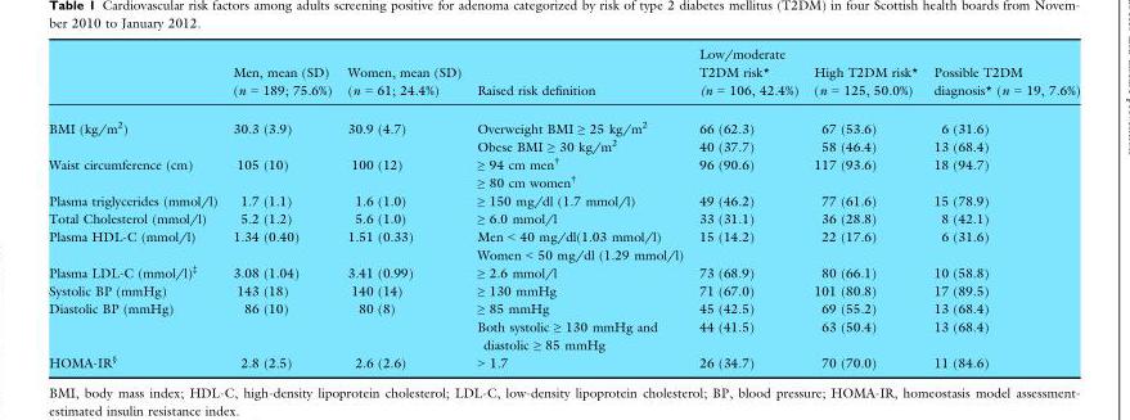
<table><thead><tr><td></td><td>Men, mean (SD) (n = 189; 75.6%)</td><td>Women, mean (SD) (n = 61; 24.4%)</td><td>Raised risk definition</td><td>Low/moderate T2DM risk* (n = 106, 42.4%)</td><td>High T2DM risk* (n = 125, 50.0%)</td><td>Possible T2DM diagnosis* (n = 19, 7.6%)</td></tr></thead><tbody><tr><td rowspan="2">BMI (kg/m<sup>2</sup>)</td><td rowspan="2">30.3 (3.9)</td><td rowspan="2">30.9 (4.7)</td><td>Overweight BMI ≥ 25 kg/m<sup>2</sup></td><td>66 (62.3)</td><td>67 (53.6)</td><td>6 (31.6)</td></tr><tr><td>Obese BMI ≥ 30 kg/m<sup>2</sup></td><td>40 (37.7)</td><td>58 (46.4)</td><td>13 (68.4)</td></tr><tr><td rowspan="2">Waist circumference (cm)</td><td rowspan="2">105 (10)</td><td rowspan="2">100 (12)</td><td>≥ 94 cm men†</td><td rowspan="2">96 (90.6)</td><td rowspan="2">117 (93.6)</td><td rowspan="2">18 (94.7)</td></tr><tr><td>≥ 80 cm women†</td></tr><tr><td>Plasma triglycerides (mmol/l)</td><td>1.7 (1.1)</td><td>1.6 (1.0)</td><td>≥ 150 mg/dl (1.7 mmol/l)</td><td>49 (46.2)</td><td>77 (61.6)</td><td>15 (78.9)</td></tr><tr><td>Total Cholesterol (mmol/l)</td><td>5.2 (1.2)</td><td>5.6 (1.0)</td><td>≥ 6.0 mmol/l</td><td>33 (31.1)</td><td>36 (28.8)</td><td>8 (42.1)</td></tr><tr><td rowspan="2">Plasma HDL-C (mmol/l)</td><td rowspan="2">1.34 (0.40)</td><td rowspan="2">1.51 (0.33)</td><td>Men &lt; 40 mg/dl(1.03 mmol/l)</td><td rowspan="2">15 (14.2)</td><td rowspan="2">22 (17.6)</td><td rowspan="2">6 (31.6)</td></tr><tr><td>Women &lt; 50 mg/dl (1.29 mmol/l)</td></tr><tr><td>Plasma LDL-C (mmol/l)‡</td><td>3.08 (1.04)</td><td>3.41 (0.99)</td><td>≥ 2.6 mmol/l</td><td>73 (68.9)</td><td>80 (66.1)</td><td>10 (58.8)</td></tr><tr><td>Systolic BP (mmHg)</td><td>143 (18)</td><td>140 (14)</td><td>≥ 130 mmHg</td><td>71 (67.0)</td><td>101 (80.8)</td><td>17 (89.5)</td></tr><tr><td rowspan="2">Diastolic BP (mmHg)</td><td rowspan="2">86 (10)</td><td rowspan="2">80 (8)</td><td>≥ 85 mmHg</td><td>45 (42.5)</td><td>69 (55.2)</td><td>13 (68.4)</td></tr><tr><td>Both systolic ≥ 130 mmHg and diastolic ≥ 85 mmHg</td><td>44 (41.5)</td><td>63 (50.4)</td><td>13 (68.4)</td></tr><tr><td>HOMA-IR§</td><td>2.8 (2.5)</td><td>2.6 (2.6)</td><td>&gt; 1.7</td><td>26 (34.7)</td><td>70 (70.0)</td><td>11 (84.6)</td></tr></tbody></table>